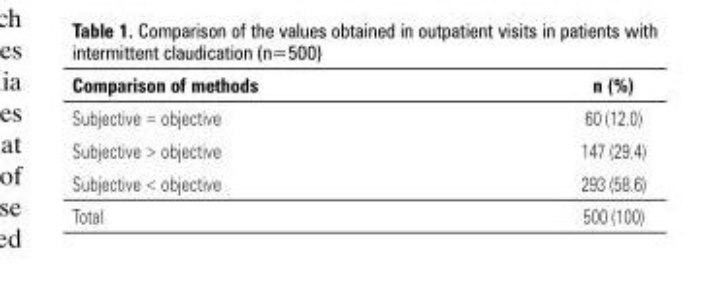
<table><thead><tr><td>Comparison of methods</td><td>n (%)</td></tr></thead><tbody><tr><td>Subjective = objective</td><td>60 (12.0)</td></tr><tr><td>Subjective &gt; objective</td><td>147 (29.4)</td></tr><tr><td>Subjective &lt; objective</td><td>293 (58.6)</td></tr><tr><td>Total</td><td>500 (100)</td></tr></tbody></table>